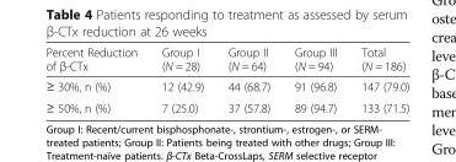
<table><thead><tr><td>Percent Reduction of β-CTx</td><td>Group I (N = 28)</td><td>Group II (N = 64)</td><td>Group III (N = 94)</td><td>Total (N = 186)</td></tr></thead><tbody><tr><td>≥ 30%, n (%)</td><td>12 (42.9)</td><td>44 (68.7)</td><td>91 (96.8)</td><td>147 (79.0)</td></tr><tr><td>≥ 50%, n (%)</td><td>7 (25.0)</td><td>37 (57.8)</td><td>89 (94.7)</td><td>133 (71.5)</td></tr></tbody></table>